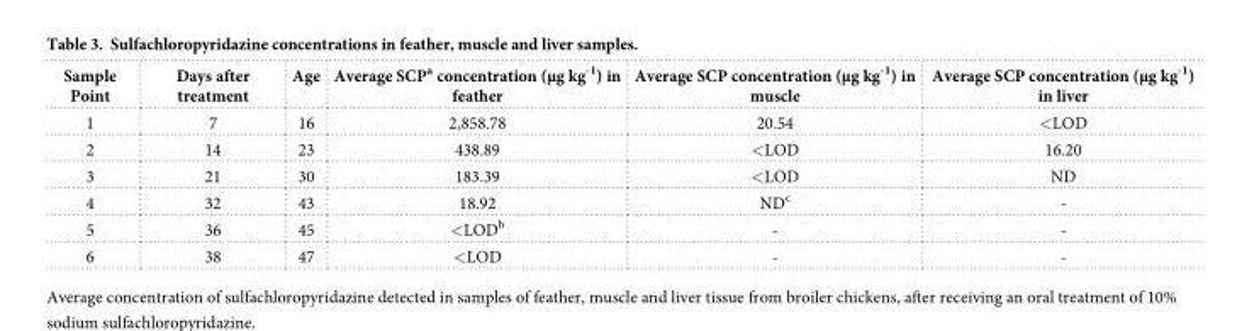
<table><thead><tr><td>Sample Point</td><td>Days after treatment</td><td>Age</td><td>Average SCP<sup>a</sup> concentration (μg kg<sup>-1</sup>) in feather</td><td>Average SCP concentration (μg kg<sup>-1</sup>) in muscle</td><td>Average SCP concentration (μg kg<sup>-1</sup>) in liver</td></tr></thead><tbody><tr><td>1</td><td>7</td><td>16</td><td>2,858.78</td><td>20.54</td><td>&lt;LOD</td></tr><tr><td>2</td><td>14</td><td>23</td><td>438.89</td><td>&lt;LOD</td><td>16.20</td></tr><tr><td>3</td><td>21</td><td>30</td><td>183.39</td><td>&lt;LOD</td><td>ND</td></tr><tr><td>4</td><td>32</td><td>43</td><td>18.92</td><td>ND<sup>c</sup></td><td>-</td></tr><tr><td>5</td><td>36</td><td>45</td><td>&lt;LOD<sup>b</sup></td><td>-</td><td>-</td></tr><tr><td>6</td><td>38</td><td>47</td><td>&lt;LOD</td><td>-</td><td>-</td></tr></tbody></table>